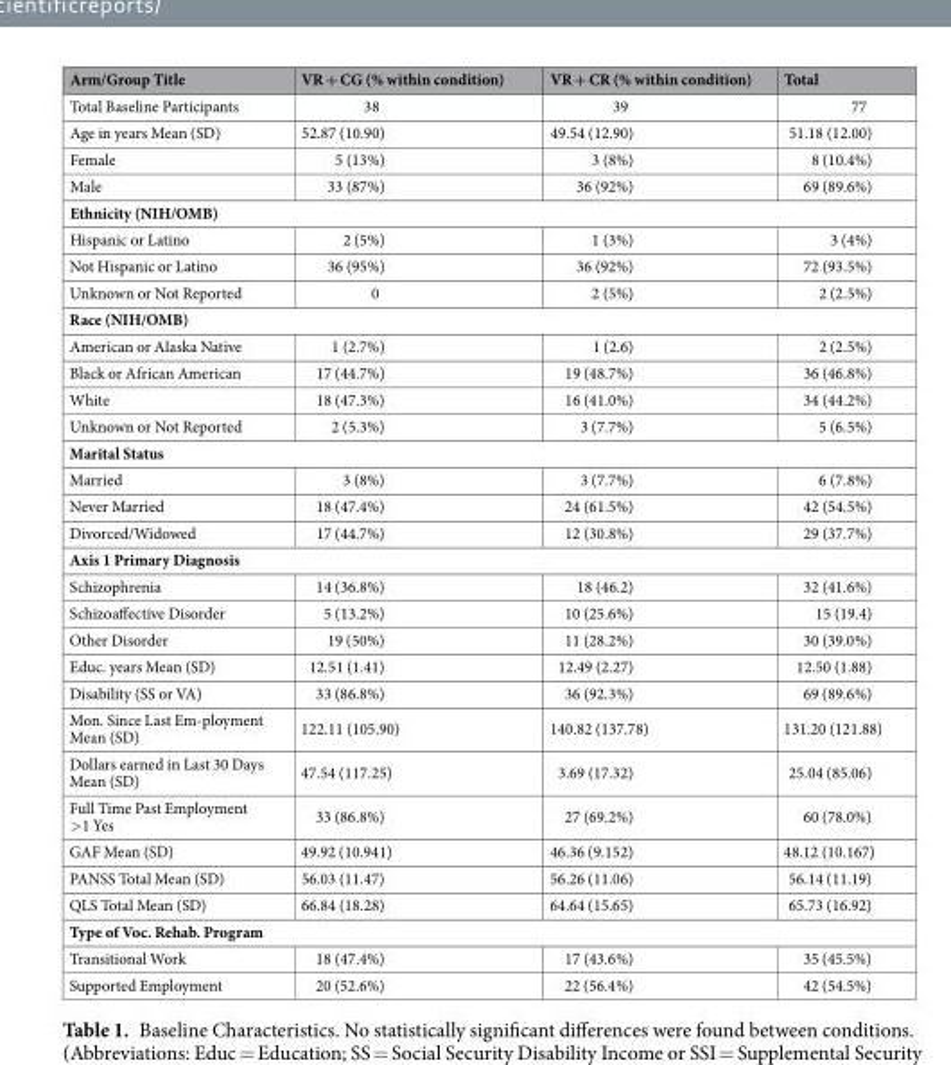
<table><thead><tr><td>Arm/Group Title</td><td>VR + CG (% within condition)</td><td>VR + CR (% within condition)</td><td>Total</td></tr></thead><tbody><tr><td>Total Baseline Participants</td><td>38</td><td>39</td><td>77</td></tr><tr><td>Age in years Mean (SD)</td><td>52.87 (10.90)</td><td>49.54 (12.90)</td><td>51.18 (12.00)</td></tr><tr><td>Female</td><td>5 (13%)</td><td>3 (8%)</td><td>8 (10.4%)</td></tr><tr><td>Male</td><td>33 (87%)</td><td>36 (92%)</td><td>69 (89.6%)</td></tr><tr><td colspan="4">Ethnicity (NIH/OMB)</td></tr><tr><td>Hispanic or Latino</td><td>2 (5%)</td><td>1 (3%)</td><td>3 (4%)</td></tr><tr><td>Not Hispanic or Latino</td><td>36 (95%)</td><td>36 (92%)</td><td>72 (93.5%)</td></tr><tr><td>Unknown or Not Reported</td><td>0</td><td>2 (5%)</td><td>2 (2.5%)</td></tr><tr><td colspan="4">Race (NIH/OMB)</td></tr><tr><td>American or Alaska Native</td><td>1 (2.7%)</td><td>1 (2.6)</td><td>2 (2.5%)</td></tr><tr><td>Black or African American</td><td>17 (44.7%)</td><td>19 (48.7%)</td><td>36 (46.8%)</td></tr><tr><td>White</td><td>18 (47.3%)</td><td>16 (41.0%)</td><td>34 (44.2%)</td></tr><tr><td>Unknown or Not Reported</td><td>2 (5.3%)</td><td>3 (7.7%)</td><td>5 (6.5%)</td></tr><tr><td colspan="4">Marital Status</td></tr><tr><td>Married</td><td>3 (8%)</td><td>3 (7.7%)</td><td>6 (7.8%)</td></tr><tr><td>Never Married</td><td>18 (47.4%)</td><td>24 (61.5%)</td><td>42 (54.5%)</td></tr><tr><td>Divorced/Widowed</td><td>17 (44.7%)</td><td>12 (30.8%)</td><td>29 (37.7%)</td></tr><tr><td colspan="4">Axis 1 Primary Diagnosis</td></tr><tr><td>Schizophrenia</td><td>14 (36.8%)</td><td>18 (46.2)</td><td>32 (41.6%)</td></tr><tr><td>Schizoaffective Disorder</td><td>5 (13.2%)</td><td>10 (25.6%)</td><td>15 (19.4)</td></tr><tr><td>Other Disorder</td><td>19 (50%)</td><td>11 (28.2%)</td><td>30 (39.0%)</td></tr><tr><td>Educ. years Mean (SD)</td><td>12.51 (1.41)</td><td>12.49 (2.27)</td><td>12.50 (1.88)</td></tr><tr><td>Disability (SS or VA)</td><td>33 (86.8%)</td><td>36 (92.3%)</td><td>69 (89.6%)</td></tr><tr><td>Mon. Since Last Em-ployment Mean (SD)</td><td>122.11 (105.90)</td><td>140.82 (137.78)</td><td>131.20 (121.88)</td></tr><tr><td>Dollars earned in Last 30 Days Mean (SD)</td><td>47.54 (117.25)</td><td>3.69 (17.32)</td><td>25.04 (85.06)</td></tr><tr><td>Full Time Past Employment &gt;1 Yes</td><td>33 (86.8%)</td><td>27 (69.2%)</td><td>60 (78.0%)</td></tr><tr><td>GAF Mean (SD)</td><td>49.92 (10.941)</td><td>46.36 (9.152)</td><td>48.12 (10.167)</td></tr><tr><td>PANSS Total Mean (SD)</td><td>56.03 (11.47)</td><td>56.26 (11.06)</td><td>56.14 (11.19)</td></tr><tr><td>QLS Total Mean (SD)</td><td>66.84 (18.28)</td><td>64.64 (15.65)</td><td>65.73 (16.92)</td></tr><tr><td colspan="4">Type of Voc. Rehab. Program</td></tr><tr><td>Transitional Work</td><td>18 (47.4%)</td><td>17 (43.6%)</td><td>35 (45.5%)</td></tr><tr><td>Supported Employment</td><td>20 (52.6%)</td><td>22 (56.4%)</td><td>42 (54.5%)</td></tr></tbody></table>